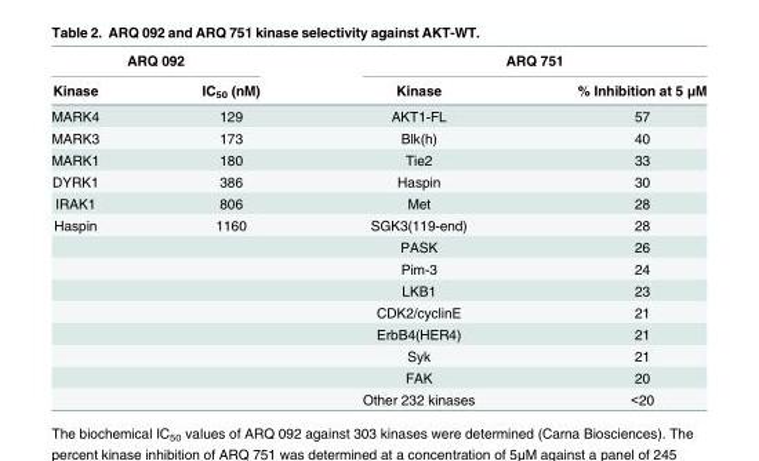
<table><thead><tr><td colspan="2">ARQ 092</td><td colspan="2">ARQ 751</td></tr><tr><td>Kinase</td><td>IC<sub>50</sub> (nM)</td><td>Kinase</td><td>% Inhibition at 5 μM</td></tr></thead><tbody><tr><td>MARK4</td><td>129</td><td>AKT1-FL</td><td>57</td></tr><tr><td>MARK3</td><td>173</td><td>Blk(h)</td><td>40</td></tr><tr><td>MARK1</td><td>180</td><td>Tie2</td><td>33</td></tr><tr><td>DYRK1</td><td>386</td><td>Haspin</td><td>30</td></tr><tr><td>IRAK1</td><td>806</td><td>Met</td><td>28</td></tr><tr><td rowspan="9">Haspin</td><td>1160</td><td>SGK3(119-end)</td><td>28</td></tr><tr><td></td><td>PASK</td><td>26</td></tr><tr><td></td><td>Pim-3</td><td>24</td></tr><tr><td></td><td>LKB1</td><td>23</td></tr><tr><td></td><td>CDK2/cyclinE</td><td>21</td></tr><tr><td></td><td>ErbB4(HER4)</td><td>21</td></tr><tr><td></td><td>Syk</td><td>21</td></tr><tr><td></td><td>FAK</td><td>20</td></tr><tr><td></td><td>Other 232 kinases</td><td>&lt;20</td></tr></tbody></table>